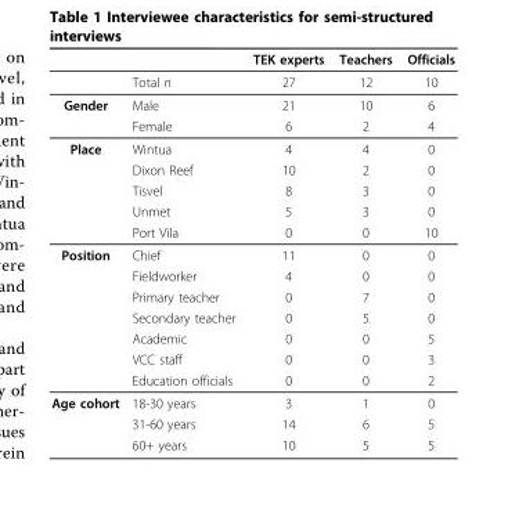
<table><thead><tr><td></td><td></td><td>TEK experts</td><td>Teachers</td><td>Officials</td></tr></thead><tbody><tr><td></td><td>Total n</td><td>27</td><td>12</td><td>10</td></tr><tr><td rowspan="2">Gender</td><td>Male</td><td>21</td><td>10</td><td>6</td></tr><tr><td>Female</td><td>6</td><td>2</td><td>4</td></tr><tr><td rowspan="5">Place</td><td>Wintua</td><td>4</td><td>4</td><td>0</td></tr><tr><td>Dixon Reef</td><td>10</td><td>2</td><td>0</td></tr><tr><td>Tisvel</td><td>8</td><td>3</td><td>0</td></tr><tr><td>Unmet</td><td>5</td><td>3</td><td>0</td></tr><tr><td>Port Vila</td><td>0</td><td>0</td><td>10</td></tr><tr><td rowspan="7">Position</td><td>Chief</td><td>11</td><td>0</td><td>0</td></tr><tr><td>Fieldworker</td><td>4</td><td>0</td><td>0</td></tr><tr><td>Primary teacher</td><td>0</td><td>7</td><td>0</td></tr><tr><td>Secondary teacher</td><td>0</td><td>5</td><td>0</td></tr><tr><td>Academic</td><td>0</td><td>0</td><td>5</td></tr><tr><td>VCC staff</td><td>0</td><td>0</td><td>3</td></tr><tr><td>Education officials</td><td>0</td><td>0</td><td>2</td></tr><tr><td rowspan="3">Age cohort</td><td>18-30 years</td><td>3</td><td>1</td><td>0</td></tr><tr><td>31-60 years</td><td>14</td><td>6</td><td>5</td></tr><tr><td>60+ years</td><td>10</td><td>5</td><td>5</td></tr></tbody></table>